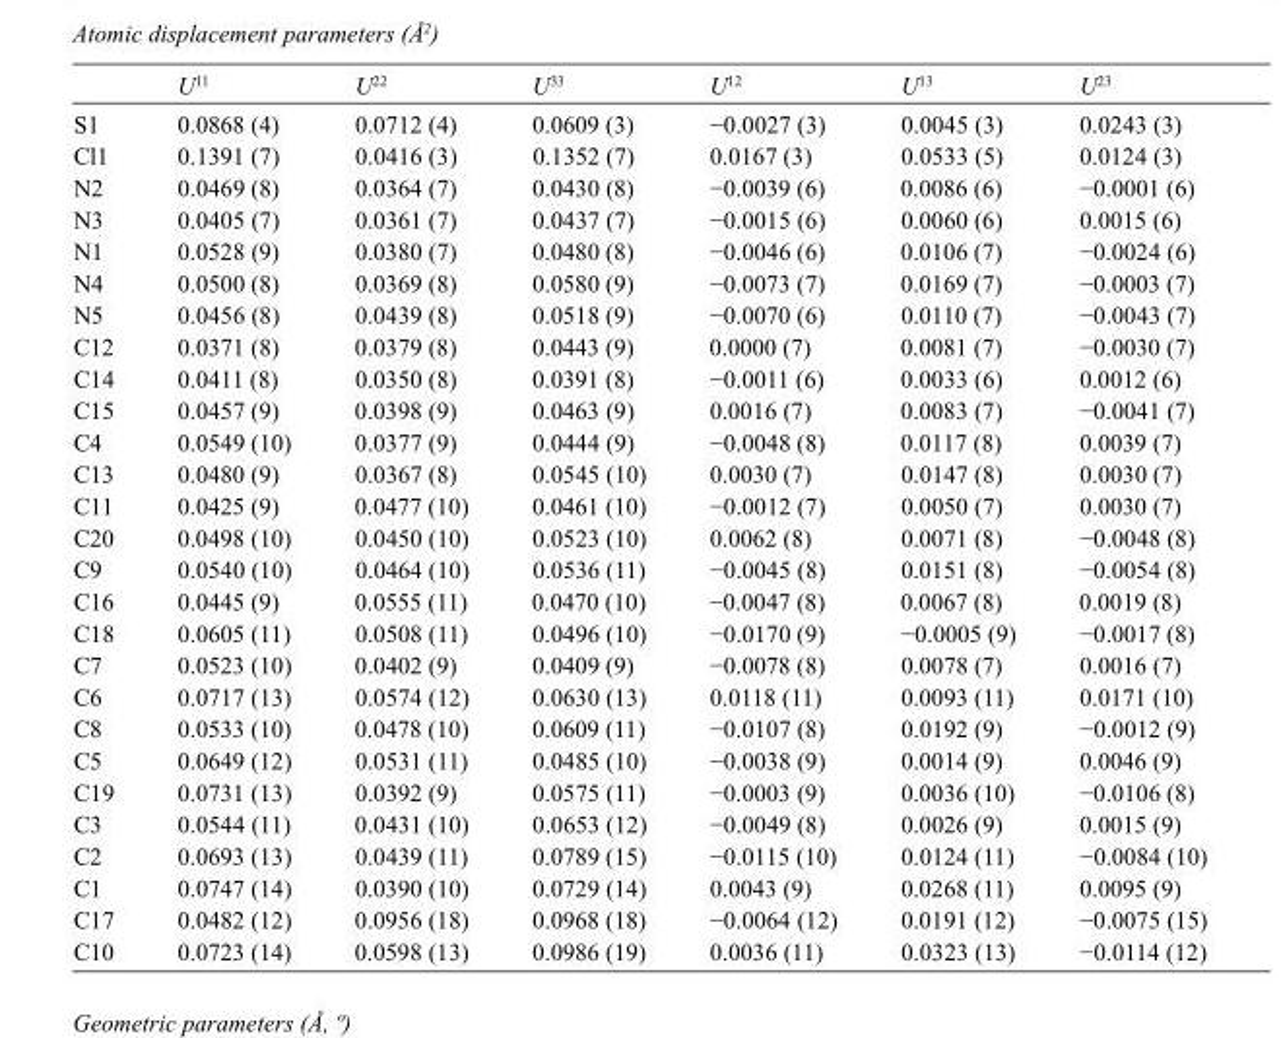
<table><thead><tr><td></td><td>U<sup>11</sup></td><td>U<sup>22</sup></td><td>U<sup>33</sup></td><td>U<sup>12</sup></td><td>U<sup>13</sup></td><td>U<sup>23</sup></td></tr></thead><tbody><tr><td>S1</td><td>0.0868 (4)</td><td>0.0712 (4)</td><td>0.0609 (3)</td><td>−0.0027 (3)</td><td>0.0045 (3)</td><td>0.0243 (3)</td></tr><tr><td>Cl1</td><td>0.1391 (7)</td><td>0.0416 (3)</td><td>0.1352 (7)</td><td>0.0167 (3)</td><td>0.0533 (5)</td><td>0.0124 (3)</td></tr><tr><td>N2</td><td>0.0469 (8)</td><td>0.0364 (7)</td><td>0.0430 (8)</td><td>−0.0039 (6)</td><td>0.0086 (6)</td><td>−0.0001 (6)</td></tr><tr><td>N3</td><td>0.0405 (7)</td><td>0.0361 (7)</td><td>0.0437 (7)</td><td>−0.0015 (6)</td><td>0.0060 (6)</td><td>0.0015 (6)</td></tr><tr><td>N1</td><td>0.0528 (9)</td><td>0.0380 (7)</td><td>0.0480 (8)</td><td>−0.0046 (6)</td><td>0.0106 (7)</td><td>−0.0024 (6)</td></tr><tr><td>N4</td><td>0.0500 (8)</td><td>0.0369 (8)</td><td>0.0580 (9)</td><td>−0.0073 (7)</td><td>0.0169 (7)</td><td>−0.0003 (7)</td></tr><tr><td>N5</td><td>0.0456 (8)</td><td>0.0439 (8)</td><td>0.0518 (9)</td><td>−0.0070 (6)</td><td>0.0110 (7)</td><td>−0.0043 (7)</td></tr><tr><td>C12</td><td>0.0371 (8)</td><td>0.0379 (8)</td><td>0.0443 (9)</td><td>0.0000 (7)</td><td>0.0081 (7)</td><td>−0.0030 (7)</td></tr><tr><td>C14</td><td>0.0411 (8)</td><td>0.0350 (8)</td><td>0.0391 (8)</td><td>−0.0011 (6)</td><td>0.0033 (6)</td><td>0.0012 (6)</td></tr><tr><td>C15</td><td>0.0457 (9)</td><td>0.0398 (9)</td><td>0.0463 (9)</td><td>0.0016 (7)</td><td>0.0083 (7)</td><td>−0.0041 (7)</td></tr><tr><td>C4</td><td>0.0549 (10)</td><td>0.0377 (9)</td><td>0.0444 (9)</td><td>−0.0048 (8)</td><td>0.0117 (8)</td><td>0.0039 (7)</td></tr><tr><td>C13</td><td>0.0480 (9)</td><td>0.0367 (8)</td><td>0.0545 (10)</td><td>0.0030 (7)</td><td>0.0147 (8)</td><td>0.0030 (7)</td></tr><tr><td>C11</td><td>0.0425 (9)</td><td>0.0477 (10)</td><td>0.0461 (10)</td><td>−0.0012 (7)</td><td>0.0050 (7)</td><td>0.0030 (7)</td></tr><tr><td>C20</td><td>0.0498 (10)</td><td>0.0450 (10)</td><td>0.0523 (10)</td><td>0.0062 (8)</td><td>0.0071 (8)</td><td>−0.0048 (8)</td></tr><tr><td>C9</td><td>0.0540 (10)</td><td>0.0464 (10)</td><td>0.0536 (11)</td><td>−0.0045 (8)</td><td>0.0151 (8)</td><td>−0.0054 (8)</td></tr><tr><td>C16</td><td>0.0445 (9)</td><td>0.0555 (11)</td><td>0.0470 (10)</td><td>−0.0047 (8)</td><td>0.0067 (8)</td><td>0.0019 (8)</td></tr><tr><td>C18</td><td>0.0605 (11)</td><td>0.0508 (11)</td><td>0.0496 (10)</td><td>−0.0170 (9)</td><td>−0.0005 (9)</td><td>−0.0017 (8)</td></tr><tr><td>C7</td><td>0.0523 (10)</td><td>0.0402 (9)</td><td>0.0409 (9)</td><td>−0.0078 (8)</td><td>0.0078 (7)</td><td>0.0016 (7)</td></tr><tr><td>C6</td><td>0.0717 (13)</td><td>0.0574 (12)</td><td>0.0630 (13)</td><td>0.0118 (11)</td><td>0.0093 (11)</td><td>0.0171 (10)</td></tr><tr><td>C8</td><td>0.0533 (10)</td><td>0.0478 (10)</td><td>0.0609 (11)</td><td>−0.0107 (8)</td><td>0.0192 (9)</td><td>−0.0012 (9)</td></tr><tr><td>C5</td><td>0.0649 (12)</td><td>0.0531 (11)</td><td>0.0485 (10)</td><td>−0.0038 (9)</td><td>0.0014 (9)</td><td>0.0046 (9)</td></tr><tr><td>C19</td><td>0.0731 (13)</td><td>0.0392 (9)</td><td>0.0575 (11)</td><td>−0.0003 (9)</td><td>0.0036 (10)</td><td>−0.0106 (8)</td></tr><tr><td>C3</td><td>0.0544 (11)</td><td>0.0431 (10)</td><td>0.0653 (12)</td><td>−0.0049 (8)</td><td>0.0026 (9)</td><td>0.0015 (9)</td></tr><tr><td>C2</td><td>0.0693 (13)</td><td>0.0439 (11)</td><td>0.0789 (15)</td><td>−0.0115 (10)</td><td>0.0124 (11)</td><td>−0.0084 (10)</td></tr><tr><td>C1</td><td>0.0747 (14)</td><td>0.0390 (10)</td><td>0.0729 (14)</td><td>0.0043 (9)</td><td>0.0268 (11)</td><td>0.0095 (9)</td></tr><tr><td>C17</td><td>0.0482 (12)</td><td>0.0956 (18)</td><td>0.0968 (18)</td><td>−0.0064 (12)</td><td>0.0191 (12)</td><td>−0.0075 (15)</td></tr><tr><td>C10</td><td>0.0723 (14)</td><td>0.0598 (13)</td><td>0.0986 (19)</td><td>0.0036 (11)</td><td>0.0323 (13)</td><td>−0.0114 (12)</td></tr></tbody></table>